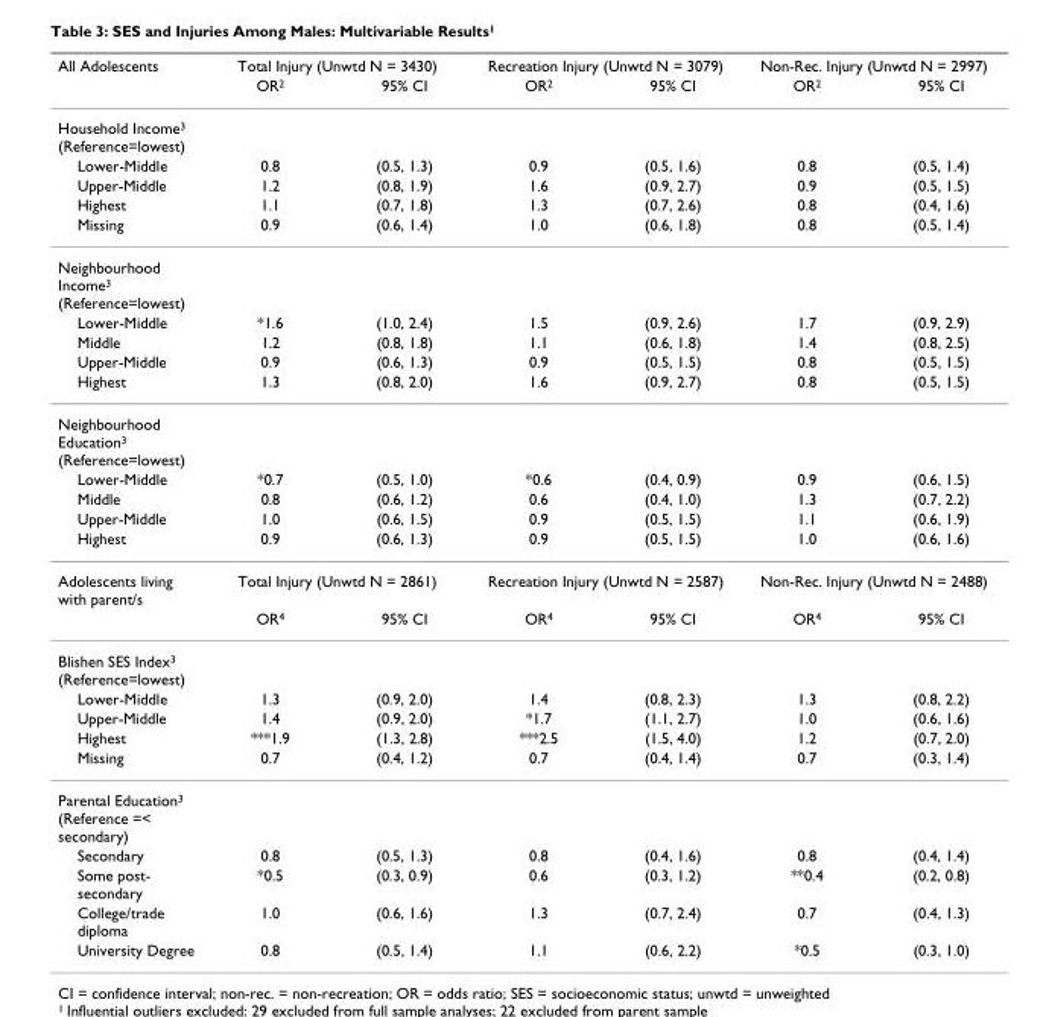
<table><thead><tr><td rowspan="2">All Adolescents</td><td colspan="2">Total Injury (Unwtd N = 3430)</td><td colspan="2">Recreation Injury (Unwtd N = 3079)</td><td colspan="2">Non-Rec. Injury (Unwtd N = 2997)</td></tr><tr><td>OR<sup>2</sup></td><td>95% CI</td><td>OR<sup>2</sup></td><td>95% CI</td><td>OR<sup>2</sup></td><td>95% CI</td></tr></thead><tbody><tr><td colspan="7">Household Income<sup>3</sup> (Reference=lowest)</td></tr><tr><td>Lower-Middle</td><td>0.8</td><td>(0.5, 1.3)</td><td>0.9</td><td>(0.5, 1.6)</td><td>0.8</td><td>(0.5, 1.4)</td></tr><tr><td>Upper-Middle</td><td>1.2</td><td>(0.8, 1.9)</td><td>1.6</td><td>(0.9, 2.7)</td><td>0.9</td><td>(0.5, 1.5)</td></tr><tr><td>Highest</td><td>1.1</td><td>(0.7, 1.8)</td><td>1.3</td><td>(0.7, 2.6)</td><td>0.8</td><td>(0.4, 1.6)</td></tr><tr><td>Missing</td><td>0.9</td><td>(0.6, 1.4)</td><td>1.0</td><td>(0.6, 1.8)</td><td>0.8</td><td>(0.5, 1.4)</td></tr><tr><td colspan="7">Neighbourhood Income<sup>3</sup> (Reference=lowest)</td></tr><tr><td>Lower-Middle</td><td>*1.6</td><td>(1.0, 2.4)</td><td>1.5</td><td>(0.9, 2.6)</td><td>1.7</td><td>(0.9, 2.9)</td></tr><tr><td>Middle</td><td>1.2</td><td>(0.8, 1.8)</td><td>1.1</td><td>(0.6, 1.8)</td><td>1.4</td><td>(0.8, 2.5)</td></tr><tr><td>Upper-Middle</td><td>0.9</td><td>(0.6, 1.3)</td><td>0.9</td><td>(0.5, 1.5)</td><td>0.8</td><td>(0.5, 1.5)</td></tr><tr><td>Highest</td><td>1.3</td><td>(0.8, 2.0)</td><td>1.6</td><td>(0.9, 2.7)</td><td>0.8</td><td>(0.5, 1.5)</td></tr><tr><td colspan="7">Neighbourhood Education<sup>3</sup> (Reference=lowest)</td></tr><tr><td>Lower-Middle</td><td>*0.7</td><td>(0.5, 1.0)</td><td>*0.6</td><td>(0.4, 0.9)</td><td>0.9</td><td>(0.6, 1.5)</td></tr><tr><td>Middle</td><td>0.8</td><td>(0.6, 1.2)</td><td>0.6</td><td>(0.4, 1.0)</td><td>1.3</td><td>(0.7, 2.2)</td></tr><tr><td>Upper-Middle</td><td>1.0</td><td>(0.6, 1.5)</td><td>0.9</td><td>(0.5, 1.5)</td><td>1.1</td><td>(0.6, 1.9)</td></tr><tr><td>Highest</td><td>0.9</td><td>(0.6, 1.3)</td><td>0.9</td><td>(0.5, 1.5)</td><td>1.0</td><td>(0.6, 1.6)</td></tr><tr><td rowspan="2">Adolescents living with parent/s</td><td colspan="2">Total Injury (Unwtd N = 2861)</td><td colspan="2">Recreation Injury (Unwtd N = 2587)</td><td colspan="2">Non-Rec. Injury (Unwtd N = 2488)</td></tr><tr><td>OR<sup>4</sup></td><td>95% CI</td><td>OR<sup>4</sup></td><td>95% CI</td><td>OR<sup>4</sup></td><td>95% CI</td></tr><tr><td colspan="7">Blishen SES Index<sup>3</sup> (Reference=lowest)</td></tr><tr><td>Lower-Middle</td><td>1.3</td><td>(0.9, 2.0)</td><td>1.4</td><td>(0.8, 2.3)</td><td>1.3</td><td>(0.8, 2.2)</td></tr><tr><td>Upper-Middle</td><td>1.4</td><td>(0.9, 2.0)</td><td>*1.7</td><td>(1.1, 2.7)</td><td>1.0</td><td>(0.6, 1.6)</td></tr><tr><td>Highest</td><td>***1.9</td><td>(1.3, 2.8)</td><td>***2.5</td><td>(1.5, 4.0)</td><td>1.2</td><td>(0.7, 2.0)</td></tr><tr><td>Missing</td><td>0.7</td><td>(0.4, 1.2)</td><td>0.7</td><td>(0.4, 1.4)</td><td>0.7</td><td>(0.3, 1.4)</td></tr><tr><td colspan="7">Parental Education<sup>3</sup> (Reference =&lt; secondary)</td></tr><tr><td>Secondary</td><td>0.8</td><td>(0.5, 1.3)</td><td>0.8</td><td>(0.4, 1.6)</td><td>0.8</td><td>(0.4, 1.4)</td></tr><tr><td>Some post- secondary</td><td>*0.5</td><td>(0.3, 0.9)</td><td>0.6</td><td>(0.3, 1.2)</td><td>**0.4</td><td>(0.2, 0.8)</td></tr><tr><td>College/trade diploma</td><td>1.0</td><td>(0.6, 1.6)</td><td>1.3</td><td>(0.7, 2.4)</td><td>0.7</td><td>(0.4, 1.3)</td></tr><tr><td>University Degree</td><td>0.8</td><td>(0.5, 1.4)</td><td>1.1</td><td>(0.6, 2.2)</td><td>*0.5</td><td>(0.3, 1.0)</td></tr></tbody></table>